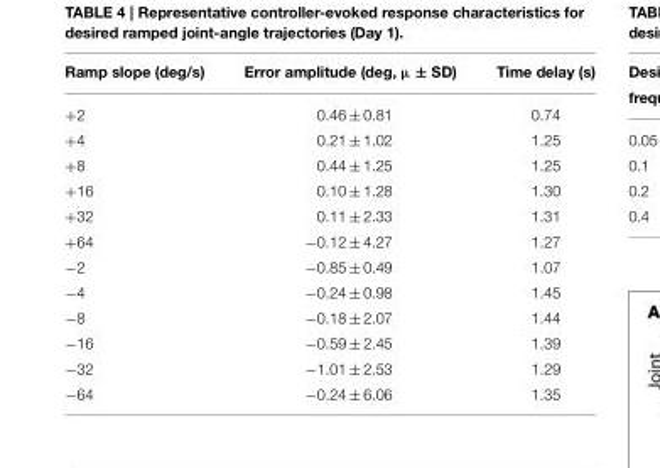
<table><thead><tr><td>Ramp slope (deg/s)</td><td>Error amplitude (deg, µ ± SD)</td><td>Time delay (s)</td></tr></thead><tbody><tr><td>+2</td><td>0.46 ± 0.81</td><td>0.74</td></tr><tr><td>+4</td><td>0.21 ± 1.02</td><td>1.25</td></tr><tr><td>+8</td><td>0.44 ± 1.25</td><td>1.25</td></tr><tr><td>+16</td><td>0.10 ± 1.28</td><td>1.30</td></tr><tr><td>+32</td><td>0.11 ± 2.33</td><td>1.31</td></tr><tr><td>+64</td><td>−0.12 ± 4.27</td><td>1.27</td></tr><tr><td>−2</td><td>−0.85 ± 0.49</td><td>1.07</td></tr><tr><td>−4</td><td>−0.24 ± 0.98</td><td>1.45</td></tr><tr><td>−8</td><td>−0.18 ± 2.07</td><td>1.44</td></tr><tr><td>−16</td><td>−0.59 ± 2.45</td><td>1.39</td></tr><tr><td>−32</td><td>−1.01 ± 2.53</td><td>1.29</td></tr><tr><td>−64</td><td>−0.24 ± 6.06</td><td>1.35</td></tr></tbody></table>